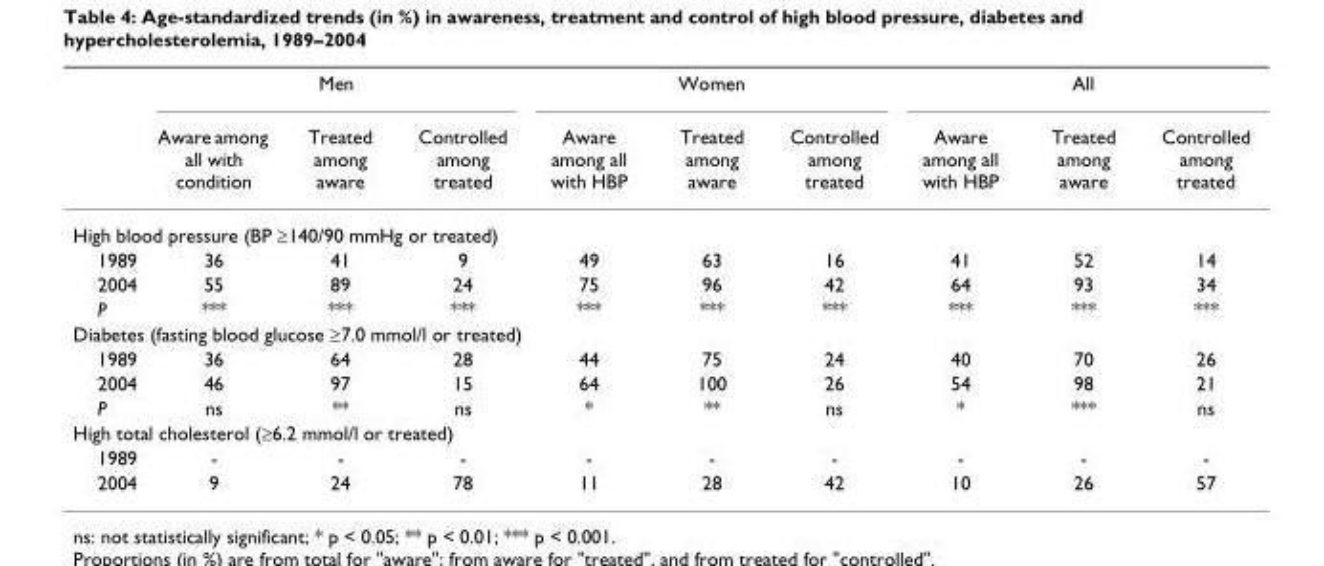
<table><thead><tr><td rowspan="2"></td><td colspan="3">Men</td><td colspan="3">Women</td><td colspan="3">All</td></tr><tr><td>Aware among all with condition</td><td>Treated among aware</td><td>Controlled among treated</td><td>Aware among all with HBP</td><td>Treated among aware</td><td>Controlled among treated</td><td>Aware among all with HBP</td><td>Treated among aware</td><td>Controlled among treated</td></tr></thead><tbody><tr><td colspan="10">High blood pressure (BP ≥140/90 mmHg or treated)</td></tr><tr><td>1989</td><td>36</td><td>41</td><td>9</td><td>49</td><td>63</td><td>16</td><td>41</td><td>52</td><td>14</td></tr><tr><td>2004</td><td>55</td><td>89</td><td>24</td><td>75</td><td>96</td><td>42</td><td>64</td><td>93</td><td>34</td></tr><tr><td>P</td><td>***</td><td>***</td><td>***</td><td>***</td><td>***</td><td>***</td><td>***</td><td>***</td><td>***</td></tr><tr><td colspan="10">Diabetes (fasting blood glucose ≥7.0 mmol/l or treated)</td></tr><tr><td>1989</td><td>36</td><td>64</td><td>28</td><td>44</td><td>75</td><td>24</td><td>40</td><td>70</td><td>26</td></tr><tr><td>2004</td><td>46</td><td>97</td><td>15</td><td>64</td><td>100</td><td>26</td><td>54</td><td>98</td><td>21</td></tr><tr><td>P</td><td>ns</td><td>**</td><td>ns</td><td>*</td><td>**</td><td>ns</td><td>*</td><td>***</td><td>ns</td></tr><tr><td colspan="10">High total cholesterol (≥6.2 mmol/l or treated)</td></tr><tr><td>1989</td><td>-</td><td>-</td><td>-</td><td>-</td><td>-</td><td>-</td><td>-</td><td>-</td><td>-</td></tr><tr><td>2004</td><td>9</td><td>24</td><td>78</td><td>11</td><td>28</td><td>42</td><td>10</td><td>26</td><td>57</td></tr></tbody></table>